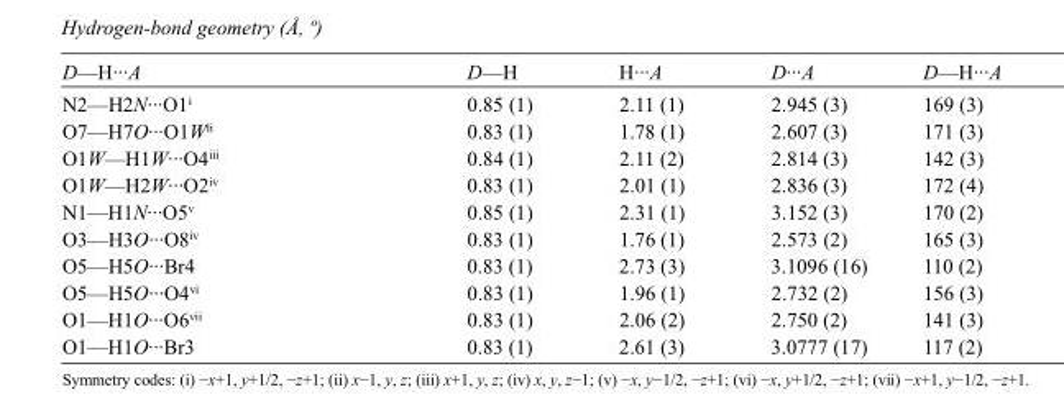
<table><tbody><tr><td>D—H···A</td><td>D—H</td><td>H···A</td><td>D···A</td><td>D—H···A</td></tr><tr><td>N2—H2N···O1<sup>i</sup></td><td>0.85 (1)</td><td>2.11 (1)</td><td>2.945 (3)</td><td>169 (3)</td></tr><tr><td>O7—H7O···O1W<sup>ii</sup></td><td>0.83 (1)</td><td>1.78 (1)</td><td>2.607 (3)</td><td>171 (3)</td></tr><tr><td>O1W—H1W···O4<sup>iii</sup></td><td>0.84 (1)</td><td>2.11 (2)</td><td>2.814 (3)</td><td>142 (3)</td></tr><tr><td>O1W—H2W···O2<sup>iv</sup></td><td>0.83 (1)</td><td>2.01 (1)</td><td>2.836 (3)</td><td>172 (4)</td></tr><tr><td>N1—H1N···O5<sup>v</sup></td><td>0.85 (1)</td><td>2.31 (1)</td><td>3.152 (3)</td><td>170 (2)</td></tr><tr><td>O3—H3O···O8<sup>iv</sup></td><td>0.83 (1)</td><td>1.76 (1)</td><td>2.573 (2)</td><td>165 (3)</td></tr><tr><td>O5—H5O···Br4</td><td>0.83 (1)</td><td>2.73 (3)</td><td>3.1096 (16)</td><td>110 (2)</td></tr><tr><td>O5—H5O···O4<sup>vi</sup></td><td>0.83 (1)</td><td>1.96 (1)</td><td>2.732 (2)</td><td>156 (3)</td></tr><tr><td>O1—H1O···O6<sup>vii</sup></td><td>0.83 (1)</td><td>2.06 (2)</td><td>2.750 (2)</td><td>141 (3)</td></tr><tr><td>O1—H1O···Br3</td><td>0.83 (1)</td><td>2.61 (3)</td><td>3.0777 (17)</td><td>117 (2)</td></tr></tbody></table>